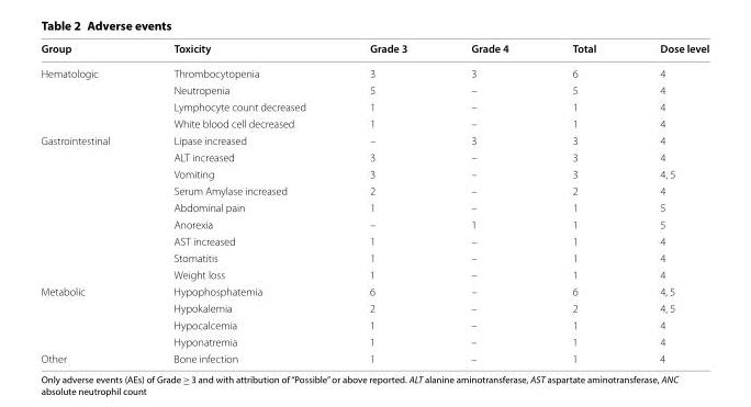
<table><thead><tr><td>Group</td><td>Toxicity</td><td>Grade 3</td><td>Grade 4</td><td>Total</td><td>Dose level</td></tr></thead><tbody><tr><td rowspan="4">Hematologic</td><td>Thrombocytopenia</td><td>3</td><td>3</td><td>6</td><td>4</td></tr><tr><td>Neutropenia</td><td>5</td><td>–</td><td>5</td><td>4</td></tr><tr><td>Lymphocyte count decreased</td><td>1</td><td>–</td><td>1</td><td>4</td></tr><tr><td>White blood cell decreased</td><td>1</td><td>–</td><td>1</td><td>4</td></tr><tr><td rowspan="9">Gastrointestinal</td><td>Lipase increased</td><td>–</td><td>3</td><td>3</td><td>4</td></tr><tr><td>ALT increased</td><td>3</td><td>–</td><td>3</td><td>4</td></tr><tr><td>Vomiting</td><td>3</td><td>–</td><td>3</td><td>4, 5</td></tr><tr><td>Serum Amylase increased</td><td>2</td><td>–</td><td>2</td><td>4</td></tr><tr><td>Abdominal pain</td><td>1</td><td>–</td><td>1</td><td>5</td></tr><tr><td>Anorexia</td><td>–</td><td>1</td><td>1</td><td>5</td></tr><tr><td>AST increased</td><td>1</td><td>–</td><td>1</td><td>4</td></tr><tr><td>Stomatitis</td><td>1</td><td>–</td><td>1</td><td>4</td></tr><tr><td>Weight loss</td><td>1</td><td>–</td><td>1</td><td>4</td></tr><tr><td rowspan="4">Metabolic</td><td>Hypophosphatemia</td><td>6</td><td>–</td><td>6</td><td>4, 5</td></tr><tr><td>Hypokalemia</td><td>2</td><td>–</td><td>2</td><td>4, 5</td></tr><tr><td>Hypocalcemia</td><td>1</td><td>–</td><td>1</td><td>4</td></tr><tr><td>Hyponatremia</td><td>1</td><td>–</td><td>1</td><td>4</td></tr><tr><td>Other</td><td>Bone infection</td><td>1</td><td>–</td><td>1</td><td>4</td></tr></tbody></table>